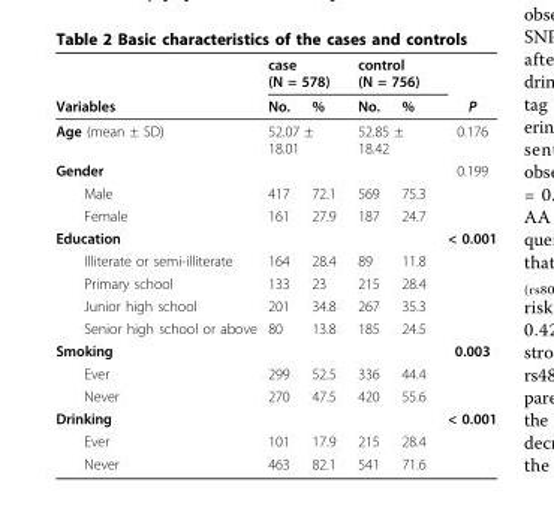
<table><thead><tr><td rowspan="2">Variables</td><td colspan="2">case (N = 578)</td><td colspan="2">control (N = 756)</td><td rowspan="2">P</td></tr><tr><td>No.</td><td>%</td><td>No.</td><td>%</td></tr></thead><tbody><tr><td>Age (mean ± SD)</td><td colspan="2">52.07 ± 18.01</td><td colspan="2">52.85 ± 18.42</td><td>0.176</td></tr><tr><td>Gender</td><td></td><td></td><td></td><td></td><td>0.199</td></tr><tr><td>Male</td><td>417</td><td>72.1</td><td>569</td><td>75.3</td><td></td></tr><tr><td>Female</td><td>161</td><td>27.9</td><td>187</td><td>24.7</td><td></td></tr><tr><td>Education</td><td></td><td></td><td></td><td></td><td>&lt; 0.001</td></tr><tr><td>Illiterate or semi-illiterate</td><td>164</td><td>28.4</td><td>89</td><td>11.8</td><td></td></tr><tr><td>Primary school</td><td>133</td><td>23</td><td>215</td><td>28.4</td><td></td></tr><tr><td>Junior high school</td><td>201</td><td>34.8</td><td>267</td><td>35.3</td><td></td></tr><tr><td>Senior high school or above</td><td>80</td><td>13.8</td><td>185</td><td>24.5</td><td></td></tr><tr><td>Smoking</td><td></td><td></td><td></td><td></td><td>0.003</td></tr><tr><td>Ever</td><td>299</td><td>52.5</td><td>336</td><td>44.4</td><td></td></tr><tr><td>Never</td><td>270</td><td>47.5</td><td>420</td><td>55.6</td><td></td></tr><tr><td>Drinking</td><td></td><td></td><td></td><td></td><td>&lt; 0.001</td></tr><tr><td>Ever</td><td>101</td><td>17.9</td><td>215</td><td>28.4</td><td></td></tr><tr><td>Never</td><td>463</td><td>82.1</td><td>541</td><td>71.6</td><td></td></tr></tbody></table>